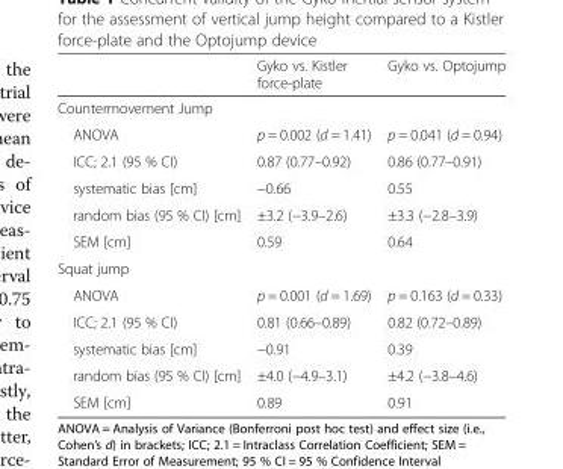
<table><thead><tr><td></td><td>Gyko vs. Kistler force-plate</td><td>Gyko vs. Optojump</td></tr></thead><tbody><tr><td colspan="3">Countermovement Jump</td></tr><tr><td>ANOVA</td><td>p = 0.002 (d = 1.41)</td><td>p = 0.041 (d = 0.94)</td></tr><tr><td>ICC; 2.1 (95 % CI)</td><td>0.87 (0.77–0.92)</td><td>0.86 (0.77–0.91)</td></tr><tr><td>systematic bias [cm]</td><td>−0.66</td><td>0.55</td></tr><tr><td>random bias (95 % CI) [cm]</td><td>±3.2 (−3.9–2.6)</td><td>±3.3 (−2.8–3.9)</td></tr><tr><td>SEM [cm]</td><td>0.59</td><td>0.64</td></tr><tr><td colspan="3">Squat jump</td></tr><tr><td>ANOVA</td><td>p = 0.001 (d = 1.69)</td><td>p = 0.163 (d = 0.33)</td></tr><tr><td>ICC; 2.1 (95 % CI)</td><td>0.81 (0.66–0.89)</td><td>0.82 (0.72–0.89)</td></tr><tr><td>systematic bias [cm]</td><td>−0.91</td><td>0.39</td></tr><tr><td>random bias (95 % CI) [cm]</td><td>±4.0 (−4.9–3.1)</td><td>±4.2 (−3.8–4.6)</td></tr><tr><td>SEM [cm]</td><td>0.89</td><td>0.91</td></tr></tbody></table>